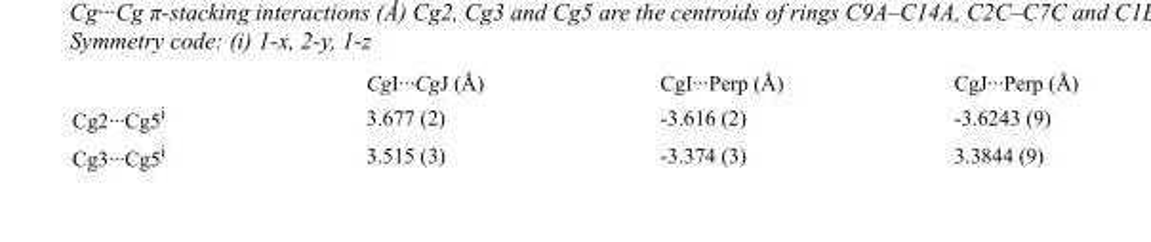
<table><thead><tr><td></td><td>CgI···CgJ (Å)</td><td>CgI···Perp (Å)</td><td>CgJ···Perp (Å)</td></tr></thead><tbody><tr><td>Cg2···Cg5<sup>i</sup></td><td>3.677 (2)</td><td>-3.616 (2)</td><td>-3.6243 (9)</td></tr><tr><td>Cg3···Cg5<sup>i</sup></td><td>3.515 (3)</td><td>-3.374 (3)</td><td>3.3844 (9)</td></tr></tbody></table>